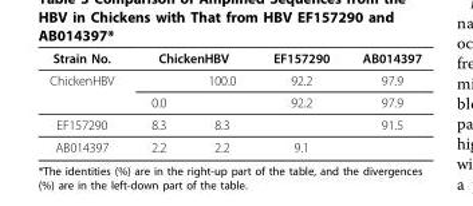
<table><thead><tr><td rowspan="2">Strain No. ChickenHBV</td><td colspan="2">ChickenHBV</td><td rowspan="2">EF157290 92.2</td><td rowspan="2">AB014397 97.9</td></tr><tr><td></td><td>100.0</td></tr></thead><tbody><tr><td></td><td>0.0</td><td></td><td>92.2</td><td>97.9</td></tr><tr><td>EF157290</td><td>8.3</td><td>8.3</td><td></td><td>91.5</td></tr><tr><td>AB014397</td><td>2.2</td><td>2.2</td><td>9.1</td><td></td></tr></tbody></table>